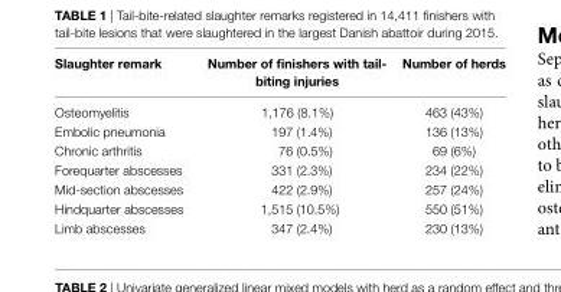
<table><thead><tr><td>slaughter remark</td><td>number of finishers with tail- biting injuries</td><td>number of herds</td></tr></thead><tbody><tr><td>Osteomyelitis</td><td>1,176 (8.1%)</td><td>463 (43%)</td></tr><tr><td>Embolic pneumonia</td><td>197 (1.4%)</td><td>136 (13%)</td></tr><tr><td>Chronic arthritis</td><td>76 (0.5%)</td><td>69 (6%)</td></tr><tr><td>Forequarter abscesses</td><td>331 (2.3%)</td><td>234 (22%)</td></tr><tr><td>Mid-section abscesses</td><td>422 (2.9%)</td><td>257 (24%)</td></tr><tr><td>Hindquarter abscesses</td><td>1,515 (10.5%)</td><td>550 (51%)</td></tr><tr><td>Limb abscesses</td><td>347 (2.4%)</td><td>230 (13%)</td></tr></tbody></table>